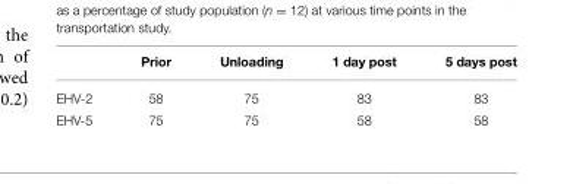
<table><thead><tr><td></td><td>Prior</td><td>Unloading</td><td>1 day post</td><td>5 days post</td></tr></thead><tbody><tr><td>EHV-2</td><td>58</td><td>75</td><td>83</td><td>83</td></tr><tr><td>EHV-5</td><td>75</td><td>75</td><td>58</td><td>58</td></tr></tbody></table>